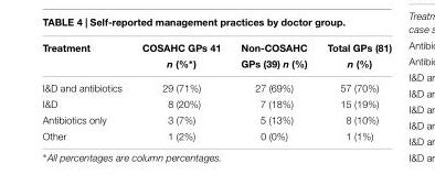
<table><thead><tr><td rowspan="2">Treatment</td><td rowspan="2">COSAHC GPs 41 n (%∗)</td><td rowspan="2">Non-COSAHC GPs (39) n (%)</td><td rowspan="2">Total GPs (81) n (%)</td></tr><tr></tr></thead><tbody><tr><td>I&amp;D and antibiotics</td><td>29 (71%)</td><td>27 (69%)</td><td>57 (70%)</td></tr><tr><td>I&amp;D</td><td>8 (20%)</td><td>7 (18%)</td><td>15 (19%)</td></tr><tr><td>Antibiotics only</td><td>3 (7%)</td><td>5 (13%)</td><td>8 (10%)</td></tr><tr><td>Other</td><td>1 (2%)</td><td>0 (0%)</td><td>1 (1%)</td></tr></tbody></table>